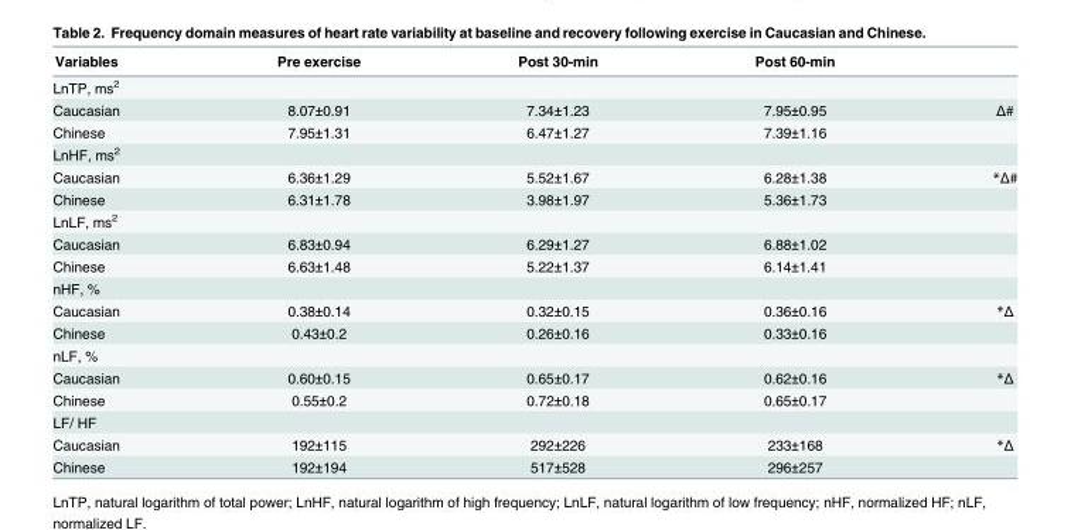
<table><thead><tr><td>Variables</td><td>Pre exercise</td><td>Post 30-min</td><td>Post 60-min</td><td></td></tr></thead><tbody><tr><td colspan="5">LnTP, ms<sup>2</sup></td></tr><tr><td>Caucasian</td><td>8.07±0.91</td><td>7.34±1.23</td><td>7.95±0.95</td><td>Δ#</td></tr><tr><td>Chinese</td><td>7.95±1.31</td><td>6.47±1.27</td><td>7.39±1.16</td><td></td></tr><tr><td colspan="5">LnHF, ms<sup>2</sup></td></tr><tr><td>Caucasian</td><td>6.36±1.29</td><td>5.52±1.67</td><td>6.28±1.38</td><td>*Δ#</td></tr><tr><td>Chinese</td><td>6.31±1.78</td><td>3.98±1.97</td><td>5.36±1.73</td><td></td></tr><tr><td colspan="5">LnLF, ms<sup>2</sup></td></tr><tr><td>Caucasian</td><td>6.83±0.94</td><td>6.29±1.27</td><td>6.88±1.02</td><td></td></tr><tr><td>Chinese</td><td>6.63±1.48</td><td>5.22±1.37</td><td>6.14±1.41</td><td></td></tr><tr><td colspan="5">nHF, %</td></tr><tr><td>Caucasian</td><td>0.38±0.14</td><td>0.32±0.15</td><td>0.36±0.16</td><td>*Δ</td></tr><tr><td>Chinese</td><td>0.43±0.2</td><td>0.26±0.16</td><td>0.33±0.16</td><td></td></tr><tr><td colspan="5">nLF, %</td></tr><tr><td>Caucasian</td><td>0.60±0.15</td><td>0.65±0.17</td><td>0.62±0.16</td><td>*Δ</td></tr><tr><td>Chinese</td><td>0.55±0.2</td><td>0.72±0.18</td><td>0.65±0.17</td><td></td></tr><tr><td colspan="5">LF/ HF</td></tr><tr><td>Caucasian</td><td>192±115</td><td>292±226</td><td>233±168</td><td>*Δ</td></tr><tr><td>Chinese</td><td>192±194</td><td>517±528</td><td>296±257</td><td></td></tr></tbody></table>